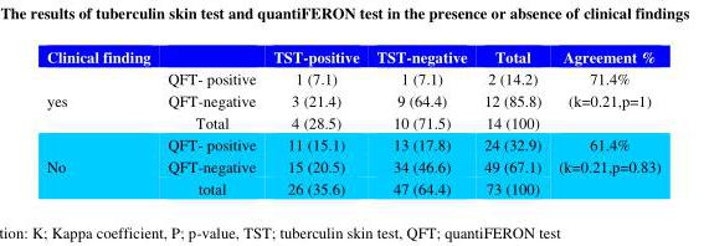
<table><thead><tr><td>Clinical finding</td><td></td><td>TST-positive</td><td>TST-negative</td><td>Total</td><td>Agreement %</td></tr></thead><tbody><tr><td rowspan="3">yes</td><td>QFT- positive</td><td>1 (7.1)</td><td>1 (7.1)</td><td>2 (14.2)</td><td rowspan="3">71.4% (k=0.21,p=1)</td></tr><tr><td>QFT-negative</td><td>3 (21.4)</td><td>9 (64.4)</td><td>12 (85.8)</td></tr><tr><td>Total</td><td>4 (28.5)</td><td>10 (71.5)</td><td>14 (100)</td></tr><tr><td rowspan="3">No</td><td>QFT- positive</td><td>11 (15.1)</td><td>13 (17.8)</td><td>24 (32.9)</td><td rowspan="3">61.4% (k=0.21,p=0.83)</td></tr><tr><td>QFT-negative</td><td>15 (20.5)</td><td>34 (46.6)</td><td>49 (67.1)</td></tr><tr><td>total</td><td>26 (35.6)</td><td>47 (64.4)</td><td>73 (100)</td></tr></tbody></table>